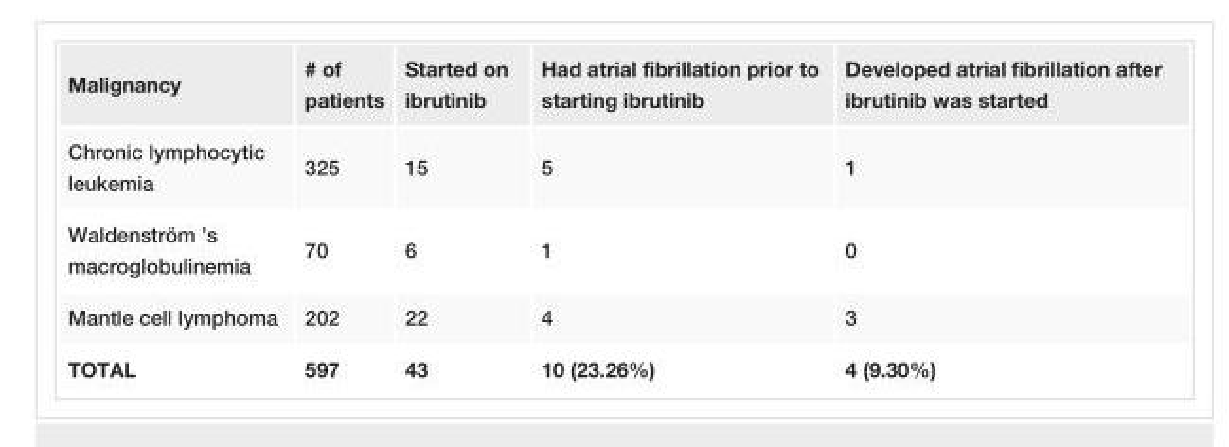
<table><tbody><tr><td>Malignancy</td><td># of patients</td><td>Started on ibrutinib</td><td>Had atrial fibrillation prior to starting ibrutinib</td><td>Developed atrial fibrillation after ibrutinib was started</td></tr><tr><td>Chronic lymphocytic leukemia</td><td>325</td><td>15</td><td>5</td><td>1</td></tr><tr><td>Waldenström ’s macroglobulinemia</td><td>70</td><td>6</td><td>1</td><td>0</td></tr><tr><td>Mantle cell lymphoma</td><td>202</td><td>22</td><td>4</td><td>3</td></tr><tr><td>TOTAL</td><td>597</td><td>43</td><td>10 (23.26%)</td><td>4 (9.30%)</td></tr></tbody></table>